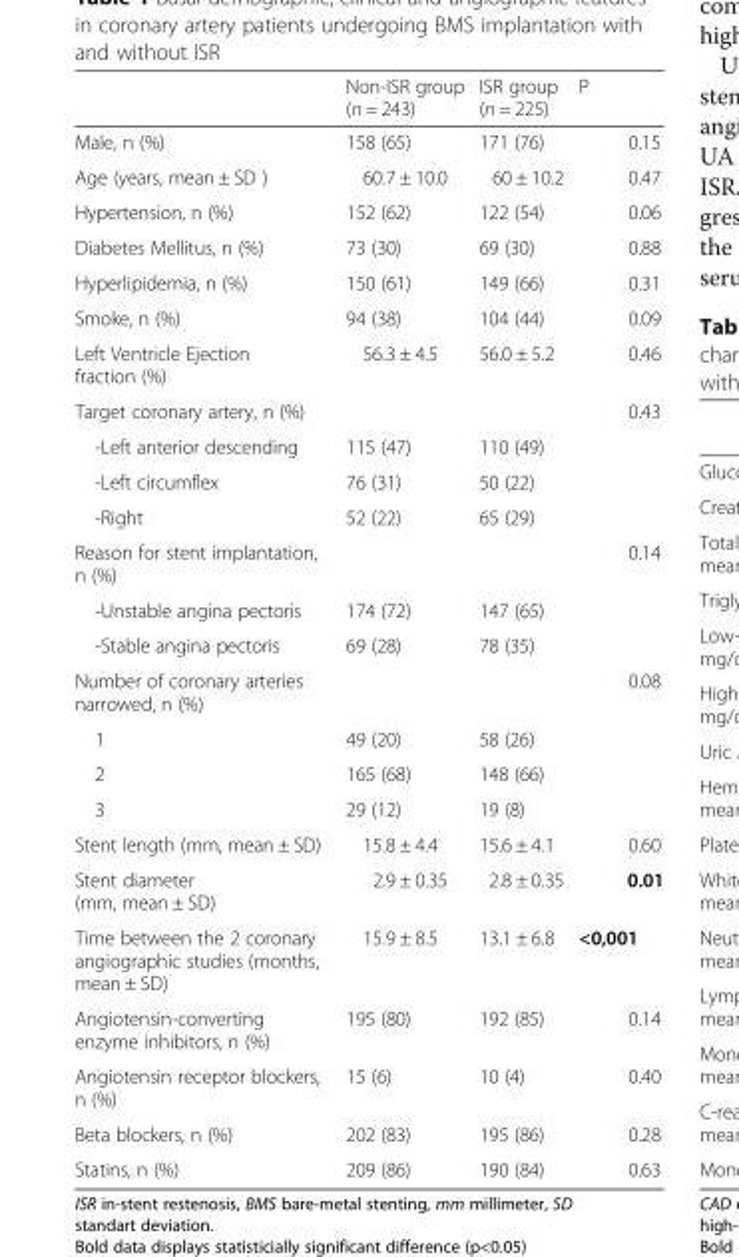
<table><thead><tr><td></td><td>Non-ISR group (n = 243)</td><td>ISR group (n = 225)</td><td>P</td></tr></thead><tbody><tr><td>Male, n (%)</td><td>158 (65)</td><td>171 (76)</td><td>0.15</td></tr><tr><td>Age (years, mean ± SD )</td><td>60.7 ± 10.0</td><td>60 ± 10.2</td><td>0.47</td></tr><tr><td>Hypertension, n (%)</td><td>152 (62)</td><td>122 (54)</td><td>0.06</td></tr><tr><td>Diabetes Mellitus, n (%)</td><td>73 (30)</td><td>69 (30)</td><td>0.88</td></tr><tr><td>Hyperlipidemia, n (%)</td><td>150 (61)</td><td>149 (66)</td><td>0.31</td></tr><tr><td>Smoke, n (%)</td><td>94 (38)</td><td>104 (44)</td><td>0.09</td></tr><tr><td>Left Ventricle Ejection fraction (%)</td><td>56.3 ± 4.5</td><td>56.0 ± 5.2</td><td>0.46</td></tr><tr><td colspan="3">Target coronary artery, n (%)</td><td rowspan="4">0.43</td></tr><tr><td>-Left anterior descending</td><td>115 (47)</td><td>110 (49)</td></tr><tr><td>-Left circumflex</td><td>76 (31)</td><td>50 (22)</td></tr><tr><td>-Right</td><td>52 (22)</td><td>65 (29)</td></tr><tr><td colspan="3">Reason for stent implantation, n (%)</td><td rowspan="3">0.14</td></tr><tr><td>-Unstable angina pectoris</td><td>174 (72)</td><td>147 (65)</td></tr><tr><td>-Stable angina pectoris</td><td>69 (28)</td><td>78 (35)</td></tr><tr><td colspan="3">Number of coronary arteries narrowed, n (%)</td><td rowspan="4">0.08</td></tr><tr><td>1</td><td>49 (20)</td><td>58 (26)</td></tr><tr><td>2</td><td>165 (68)</td><td>148 (66)</td></tr><tr><td>3</td><td>29 (12)</td><td>19 (8)</td></tr><tr><td>Stent length (mm, mean ± SD)</td><td>15.8 ± 4.4</td><td>15.6 ± 4.1</td><td>0.60</td></tr><tr><td>Stent diameter (mm, mean ± SD)</td><td>2.9 ± 0.35</td><td>2.8 ± 0.35</td><td>0.01</td></tr><tr><td>Time between the 2 coronary angiographic studies (months, mean ± SD)</td><td>15.9 ± 8.5</td><td>13.1 ± 6.8</td><td>&lt;0,001</td></tr><tr><td>Angiotensin-converting enzyme inhibitors, n (%)</td><td>195 (80)</td><td>192 (85)</td><td>0.14</td></tr><tr><td>Angiotensin receptor blockers, n (%)</td><td>15 (6)</td><td>10 (4)</td><td>0.40</td></tr><tr><td>Beta blockers, n (%)</td><td>202 (83)</td><td>195 (86)</td><td>0.28</td></tr><tr><td>Statins, n (%)</td><td>209 (86)</td><td>190 (84)</td><td>0.63</td></tr></tbody></table>